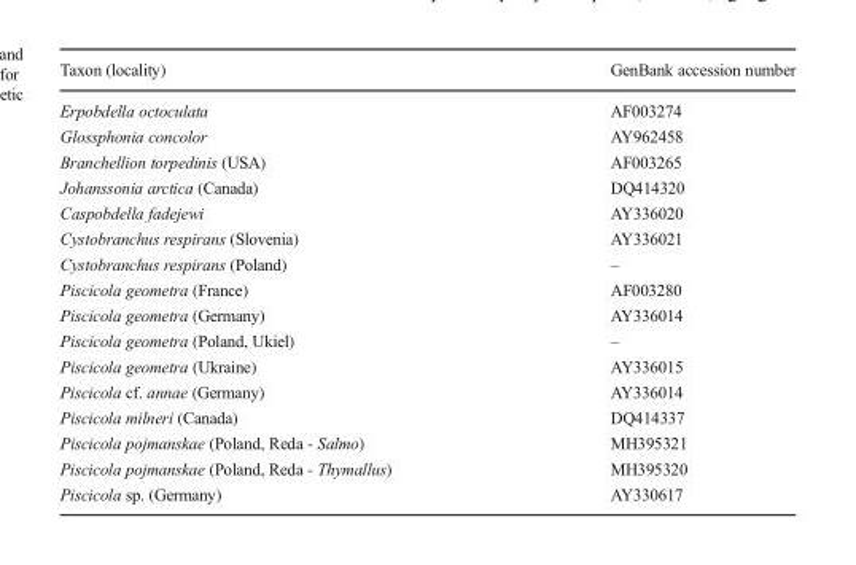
<table><thead><tr><td>Taxon (locality)</td><td>GenBank accession number</td></tr></thead><tbody><tr><td>Erpobdella octoculata</td><td>AF003274</td></tr><tr><td>Glossphonia concolor</td><td>AY962458</td></tr><tr><td>Branchellion torpedinis (USA)</td><td>AF003265</td></tr><tr><td>Johanssonia arctica (Canada)</td><td>DQ414320</td></tr><tr><td>Caspobdella fadejewi</td><td>AY336020</td></tr><tr><td>Cystobranchus respirans (Slovenia)</td><td>AY336021</td></tr><tr><td>Cystobranchus respirans (Poland)</td><td>–</td></tr><tr><td>Piscicola geometra (France)</td><td>AF003280</td></tr><tr><td>Piscicola geometra (Germany)</td><td>AY336014</td></tr><tr><td>Piscicola geometra (Poland, Ukiel)</td><td>–</td></tr><tr><td>Piscicola geometra (Ukraine)</td><td>AY336015</td></tr><tr><td>Piscicola cf. annae (Germany)</td><td>AY336014</td></tr><tr><td>Piscicola milneri (Canada)</td><td>DQ414337</td></tr><tr><td>Piscicola pojmanskae (Poland, Reda - Salmo)</td><td>MH395321</td></tr><tr><td>Piscicola pojmanskae (Poland, Reda - Thymallus)</td><td>MH395320</td></tr><tr><td>Piscicola sp. (Germany)</td><td>AY330617</td></tr></tbody></table>